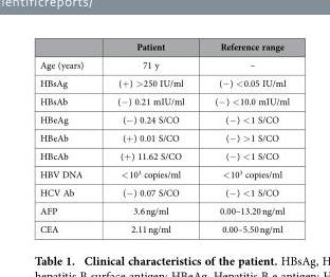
<table><thead><tr><td></td><td>Patient</td><td>Reference range</td></tr></thead><tbody><tr><td>Age (years)</td><td>71 y</td><td>–</td></tr><tr><td>HBsAg</td><td>(+ ) &gt; 250 IU/ml</td><td>(− ) &lt; 0.05 IU/ml</td></tr><tr><td>HBsAb</td><td>(− ) 0.21 mIU/ml</td><td>(− ) &lt; 10.0 mIU/ml</td></tr><tr><td>HBeAg</td><td>(− ) 0.24 S/CO</td><td>(− ) &lt; 1 S/CO</td></tr><tr><td>HBeAb</td><td>(+ ) 0.01 S/CO</td><td>(− ) &gt; 1 S/CO</td></tr><tr><td>HBcAb</td><td>(+ ) 11.62 S/CO</td><td>(− ) &lt; 1 S/CO</td></tr><tr><td>HBV DNA</td><td>&lt; 10<sup>3</sup> copies/ml</td><td>&lt; 10<sup>3</sup> copies/ml</td></tr><tr><td>HCV Ab</td><td>(− ) 0.07 S/CO</td><td>(− ) &lt; 1 S/CO</td></tr><tr><td>AFP</td><td>3.6 ng/ml</td><td>0.00–13.20 ng/ml</td></tr><tr><td>CEA</td><td>2.11 ng/ml</td><td>0.00–5.50 ng/ml</td></tr></tbody></table>